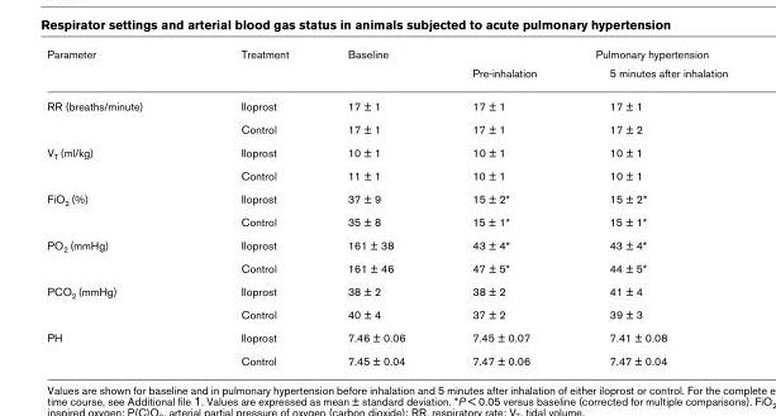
<table><thead><tr><td rowspan="2">Parameter</td><td rowspan="2">Treatment</td><td rowspan="2">Baseline</td><td colspan="2">Pulmonary hypertension</td></tr><tr><td>Pre-inhalation</td><td>5 minutes after inhalation</td></tr></thead><tbody><tr><td rowspan="2">RR (breaths/minute)</td><td>Iloprost</td><td>17 ± 1</td><td>17 ± 1</td><td>17 ± 1</td></tr><tr><td>Control</td><td>17 ± 1</td><td>17 ± 1</td><td>17 ± 2</td></tr><tr><td rowspan="2">V<sub>T</sub> (ml/kg)</td><td>Iloprost</td><td>10 ± 1</td><td>10 ± 1</td><td>10 ± 1</td></tr><tr><td>Control</td><td>11 ± 1</td><td>10 ± 1</td><td>10 ± 1</td></tr><tr><td rowspan="2">FiO<sub>2</sub> (%)</td><td>Iloprost</td><td>37 ± 9</td><td>15 ± 2*</td><td>15 ± 2*</td></tr><tr><td>Control</td><td>35 ± 8</td><td>15 ± 1*</td><td>15 ± 1*</td></tr><tr><td rowspan="2">PO<sub>2</sub> (mmHg)</td><td>Iloprost</td><td>161 ± 38</td><td>43 ± 4*</td><td>43 ± 4*</td></tr><tr><td>Control</td><td>161 ± 46</td><td>47 ± 5*</td><td>44 ± 5*</td></tr><tr><td rowspan="2">PCO<sub>2</sub> (mmHg)</td><td>Iloprost</td><td>38 ± 2</td><td>38 ± 2</td><td>41 ± 4</td></tr><tr><td>Control</td><td>40 ± 4</td><td>37 ± 2</td><td>39 ± 3</td></tr><tr><td rowspan="2">PH</td><td>Iloprost</td><td>7.46 ± 0.06</td><td>7.45 ± 0.07</td><td>7.41 ± 0.08</td></tr><tr><td>Control</td><td>7.45 ± 0.04</td><td>7.47 ± 0.06</td><td>7.47 ± 0.04</td></tr></tbody></table>